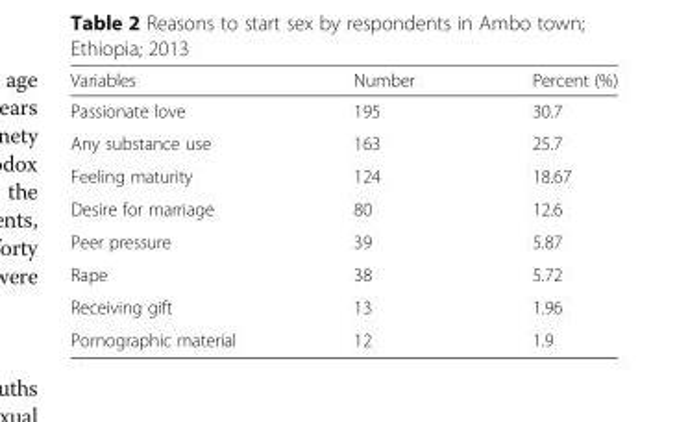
<table><thead><tr><td>Variables</td><td>Number</td><td>Percent (%)</td></tr></thead><tbody><tr><td>Passionate love</td><td>195</td><td>30.7</td></tr><tr><td>Any substance use</td><td>163</td><td>25.7</td></tr><tr><td>Feeling maturity</td><td>124</td><td>18.67</td></tr><tr><td>Desire for marriage</td><td>80</td><td>12.6</td></tr><tr><td>Peer pressure</td><td>39</td><td>5.87</td></tr><tr><td>Rape</td><td>38</td><td>5.72</td></tr><tr><td>Receiving gift</td><td>13</td><td>1.96</td></tr><tr><td>Pornographic material</td><td>12</td><td>1.9</td></tr></tbody></table>